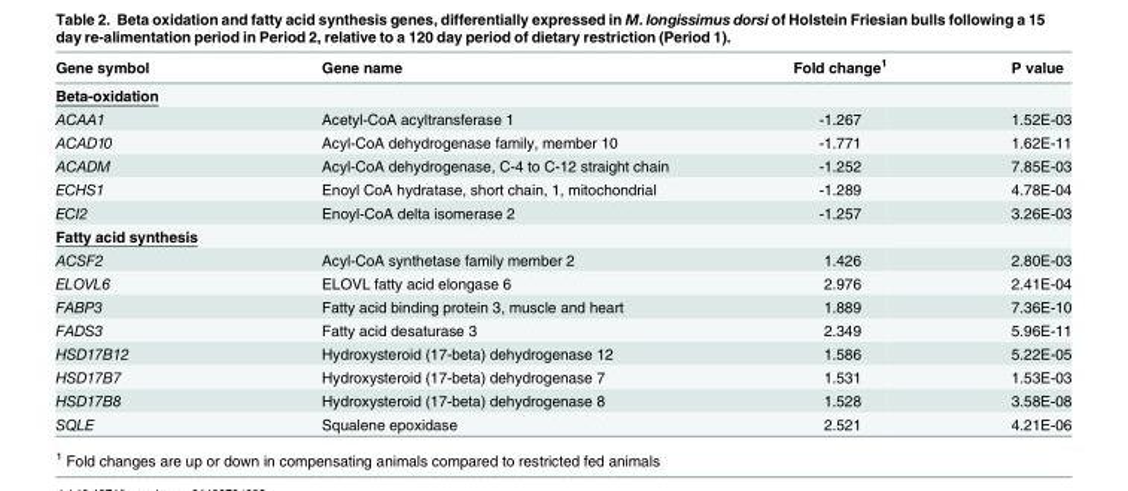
<table><thead><tr><td>Gene symbol</td><td>Gene name</td><td>Fold change<sup>1</sup></td><td>P value</td></tr></thead><tbody><tr><td colspan="4">Beta-oxidation</td></tr><tr><td>ACAA1</td><td>Acetyl-CoA acyltransferase 1</td><td>-1.267</td><td>1.52E-03</td></tr><tr><td>ACAD10</td><td>Acyl-CoA dehydrogenase family, member 10</td><td>-1.771</td><td>1.62E-11</td></tr><tr><td>ACADM</td><td>Acyl-CoA dehydrogenase, C-4 to C-12 straight chain</td><td>-1.252</td><td>7.85E-03</td></tr><tr><td>ECHS1</td><td>Enoyl CoA hydratase, short chain, 1, mitochondrial</td><td>-1.289</td><td>4.78E-04</td></tr><tr><td>ECI2</td><td>Enoyl-CoA delta isomerase 2</td><td>-1.257</td><td>3.26E-03</td></tr><tr><td colspan="4">Fatty acid synthesis</td></tr><tr><td>ACSF2</td><td>Acyl-CoA synthetase family member 2</td><td>1.426</td><td>2.80E-03</td></tr><tr><td>ELOVL6</td><td>ELOVL fatty acid elongase 6</td><td>2.976</td><td>2.41E-04</td></tr><tr><td>FABP3</td><td>Fatty acid binding protein 3, muscle and heart</td><td>1.889</td><td>7.36E-10</td></tr><tr><td>FADS3</td><td>Fatty acid desaturase 3</td><td>2.349</td><td>5.96E-11</td></tr><tr><td>HSD17B12</td><td>Hydroxysteroid (17-beta) dehydrogenase 12</td><td>1.586</td><td>5.22E-05</td></tr><tr><td>HSD17B7</td><td>Hydroxysteroid (17-beta) dehydrogenase 7</td><td>1.531</td><td>1.53E-03</td></tr><tr><td>HSD17B8</td><td>Hydroxysteroid (17-beta) dehydrogenase 8</td><td>1.528</td><td>3.58E-08</td></tr><tr><td>SQLE</td><td>Squalene epoxidase</td><td>2.521</td><td>4.21E-06</td></tr></tbody></table>